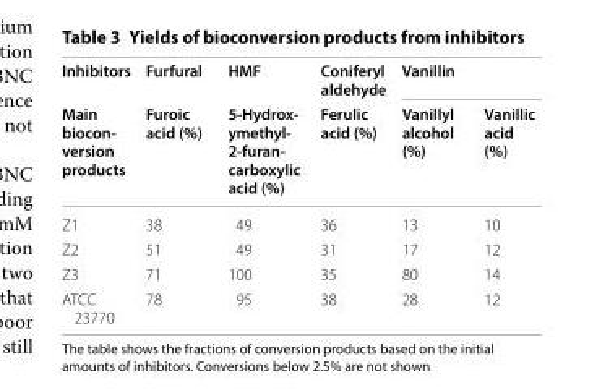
<table><thead><tr><td rowspan="2">Inhibitors Main biocon- version products</td><td rowspan="2">Furfural Furoic acid (%)</td><td rowspan="2">HMF 5-Hydrox- ymethyl- 2-furan- carboxylic acid (%)</td><td rowspan="2">Coniferyl aldehyde Ferulic acid (%)</td><td colspan="2">Vanillin</td></tr><tr><td>Vanillyl alcohol (%)</td><td>Vanillic acid (%)</td></tr></thead><tbody><tr><td>Z1</td><td>38</td><td>49</td><td>36</td><td>13</td><td>10</td></tr><tr><td>Z2</td><td>51</td><td>49</td><td>31</td><td>17</td><td>12</td></tr><tr><td>Z3</td><td>71</td><td>100</td><td>35</td><td>80</td><td>14</td></tr><tr><td>ATCC 23770</td><td>78</td><td>95</td><td>38</td><td>28</td><td>12</td></tr></tbody></table>